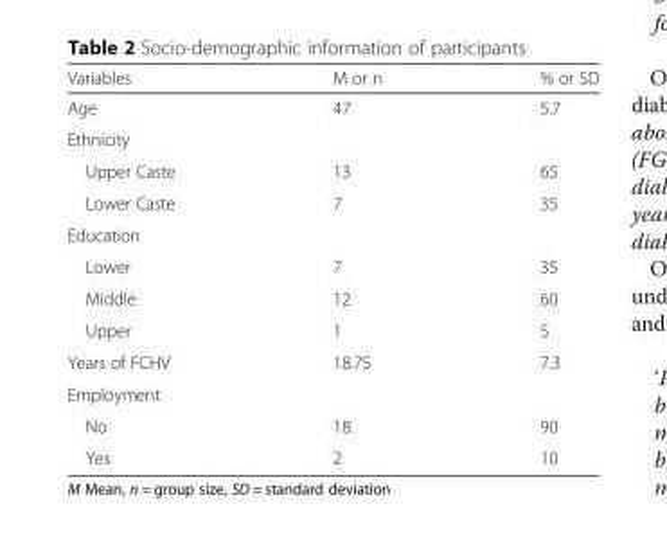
<table><thead><tr><td>Variables</td><td>M or n</td><td>% or SD</td></tr></thead><tbody><tr><td>Age</td><td>47</td><td>5.7</td></tr><tr><td colspan="3">Ethnicity</td></tr><tr><td>Upper Caste</td><td>13</td><td>65</td></tr><tr><td>Lower Caste</td><td>7</td><td>35</td></tr><tr><td colspan="3">Education</td></tr><tr><td>Lower</td><td>7</td><td>35</td></tr><tr><td>Middle</td><td>12</td><td>60</td></tr><tr><td>Upper</td><td>1</td><td>5</td></tr><tr><td>Years of FCHV</td><td>18.75</td><td>7.3</td></tr><tr><td colspan="3">Employment</td></tr><tr><td>No</td><td>18</td><td>90</td></tr><tr><td>Yes</td><td>2</td><td>10</td></tr></tbody></table>